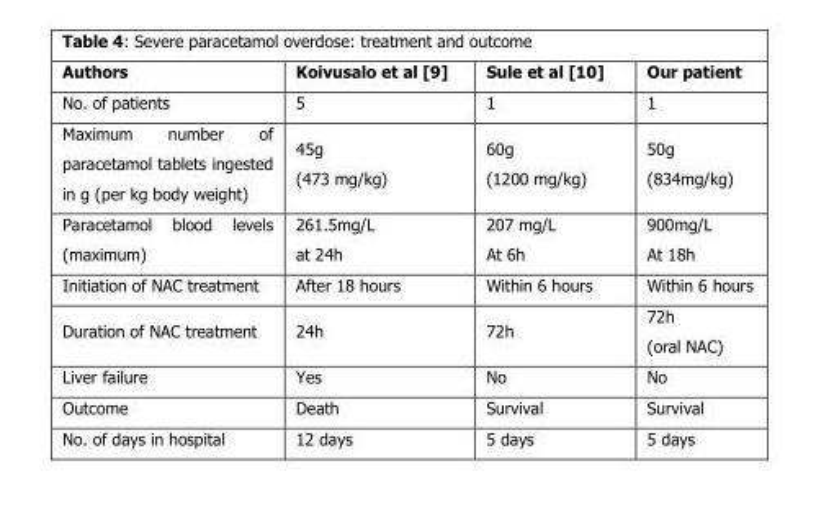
<table><thead><tr><td>Authors</td><td>Koivusalo et al [9]</td><td>Sule et al [10]</td><td>Our patient</td></tr></thead><tbody><tr><td>No. of patients</td><td>5</td><td>1</td><td>1</td></tr><tr><td>Maximum number of paracetamol tablets ingested in g (per kg body weight)</td><td>45g (473 mg/kg)</td><td>60g (1200 mg/kg)</td><td>50g (834mg/kg)</td></tr><tr><td>Paracetamol blood levels (maximum)</td><td>261.5mg/L at 24h</td><td>207 mg/L At 6h</td><td>900mg/L At 18h</td></tr><tr><td>Initiation of NAC treatment</td><td>After 18 hours</td><td>Within 6 hours</td><td>Within 6 hours</td></tr><tr><td>Duration of NAC treatment</td><td>24h</td><td>72h</td><td>72h (oral NAC)</td></tr><tr><td>Liver failure</td><td>Yes</td><td>No</td><td>No</td></tr><tr><td>Outcome</td><td>Death</td><td>Survival</td><td>Survival</td></tr><tr><td>No. of days in hospital</td><td>12 days</td><td>5 days</td><td>5 days</td></tr></tbody></table>